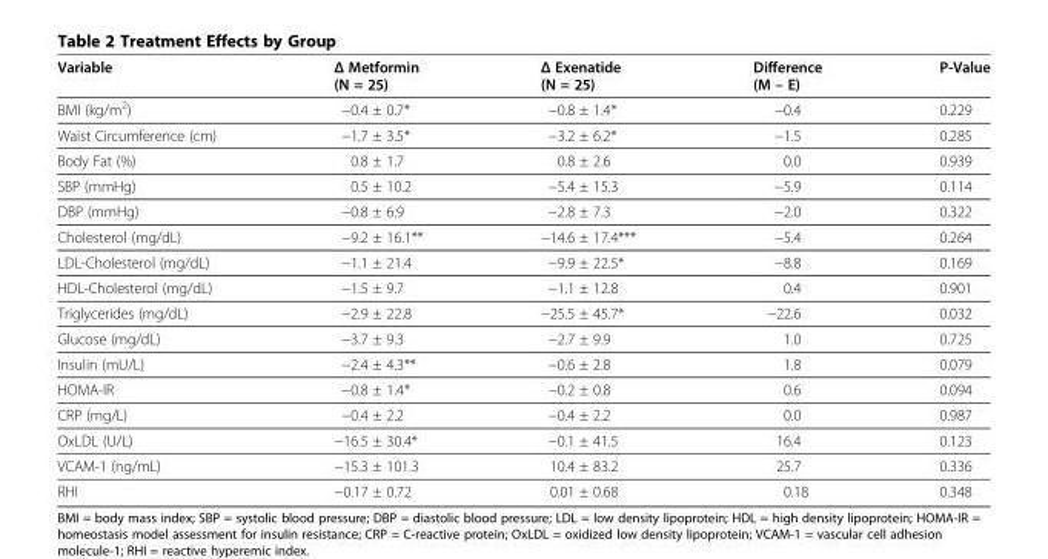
<table><thead><tr><td>Variable</td><td>Δ Metformin (N = 25)</td><td>Δ Exenatide (N = 25)</td><td>Difference (M – E)</td><td>P-Value</td></tr></thead><tbody><tr><td>BMI (kg/m<sup>2</sup>)</td><td>−0.4 ± 0.7*</td><td>−0.8 ± 1.4*</td><td>−0.4</td><td>0.229</td></tr><tr><td>Waist Circumference (cm)</td><td>−1.7 ± 3.5*</td><td>−3.2 ± 6.2*</td><td>−1.5</td><td>0.285</td></tr><tr><td>Body Fat (%)</td><td>0.8 ± 1.7</td><td>0.8 ± 2.6</td><td>0.0</td><td>0.939</td></tr><tr><td>SBP (mmHg)</td><td>0.5 ± 10.2</td><td>−5.4 ± 15.3</td><td>−5.9</td><td>0.114</td></tr><tr><td>DBP (mmHg)</td><td>−0.8 ± 6.9</td><td>−2.8 ± 7.3</td><td>−2.0</td><td>0.322</td></tr><tr><td>Cholesterol (mg/dL)</td><td>−9.2 ± 16.1**</td><td>−14.6 ± 17.4***</td><td>−5.4</td><td>0.264</td></tr><tr><td>LDL-Cholesterol (mg/dL)</td><td>−1.1 ± 21.4</td><td>−9.9 ± 22.5*</td><td>−8.8</td><td>0.169</td></tr><tr><td>HDL-Cholesterol (mg/dL)</td><td>−1.5 ± 9.7</td><td>−1.1 ± 12.8</td><td>0.4</td><td>0.901</td></tr><tr><td>Triglycerides (mg/dL)</td><td>−2.9 ± 22.8</td><td>−25.5 ± 45.7*</td><td>−22.6</td><td>0.032</td></tr><tr><td>Glucose (mg/dL)</td><td>−3.7 ± 9.3</td><td>−2.7 ± 9.9</td><td>1.0</td><td>0.725</td></tr><tr><td>Insulin (mU/L)</td><td>−2.4 ± 4.3**</td><td>−0.6 ± 2.8</td><td>1.8</td><td>0.079</td></tr><tr><td>HOMA-IR</td><td>−0.8 ± 1.4*</td><td>−0.2 ± 0.8</td><td>0.6</td><td>0.094</td></tr><tr><td>CRP (mg/L)</td><td>−0.4 ± 2.2</td><td>−0.4 ± 2.2</td><td>0.0</td><td>0.987</td></tr><tr><td>OxLDL (U/L)</td><td>−16.5 ± 30.4*</td><td>−0.1 ± 41.5</td><td>16.4</td><td>0.123</td></tr><tr><td>VCAM-1 (ng/mL)</td><td>−15.3 ± 101.3</td><td>10.4 ± 83.2</td><td>25.7</td><td>0.336</td></tr><tr><td>RHI</td><td>−0.17 ± 0.72</td><td>0.01 ± 0.68</td><td>0.18</td><td>0.348</td></tr></tbody></table>